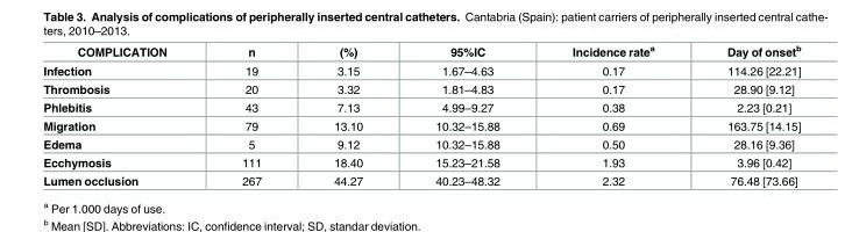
<table><thead><tr><td>COMPLICATION</td><td>n</td><td>(%)</td><td>95%IC</td><td>Incidence rate<sup>a</sup></td><td>Day of onset<sup>b</sup></td></tr></thead><tbody><tr><td>Infection</td><td>19</td><td>3.15</td><td>1.67–4.63</td><td>0.17</td><td>114.26 [22.21]</td></tr><tr><td>Thrombosis</td><td>20</td><td>3.32</td><td>1.81–4.83</td><td>0.17</td><td>28.90 [9.12]</td></tr><tr><td>Phlebitis</td><td>43</td><td>7.13</td><td>4.99–9.27</td><td>0.38</td><td>2.23 [0.21]</td></tr><tr><td>Migration</td><td>79</td><td>13.10</td><td>10.32–15.88</td><td>0.69</td><td>163.75 [14.15]</td></tr><tr><td>Edema</td><td>5</td><td>9.12</td><td>10.32–15.88</td><td>0.50</td><td>28.16 [9.36]</td></tr><tr><td>Ecchymosis</td><td>111</td><td>18.40</td><td>15.23–21.58</td><td>1.93</td><td>3.96 [0.42]</td></tr><tr><td>Lumen occlusion</td><td>267</td><td>44.27</td><td>40.23–48.32</td><td>2.32</td><td>76.48 [73.66]</td></tr></tbody></table>